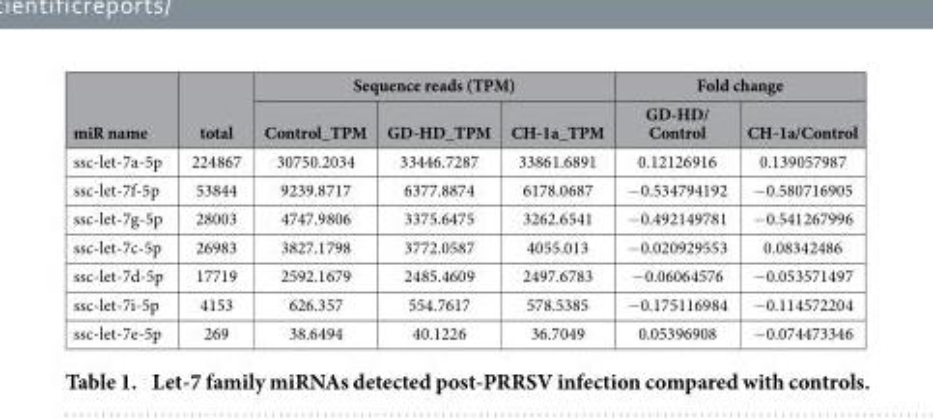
<table><thead><tr><td rowspan="2">miR name</td><td rowspan="2">total</td><td colspan="3">Sequence reads (TPM)</td><td colspan="2">Fold change</td></tr><tr><td>Control_TPM</td><td>GD-HD_TPM</td><td>CH-1a_TPM</td><td>GD-HD/ Control</td><td>CH-1a/Control</td></tr></thead><tbody><tr><td>ssc-let-7a-5p</td><td>224867</td><td>30750.2034</td><td>33446.7287</td><td>33861.6891</td><td>0.12126916</td><td>0.139057987</td></tr><tr><td>ssc-let-7f-5p</td><td>53844</td><td>9239.8717</td><td>6377.8874</td><td>6178.0687</td><td>− 0.534794192</td><td>− 0.580716905</td></tr><tr><td>ssc-let-7g-5p</td><td>28003</td><td>4747.9806</td><td>3375.6475</td><td>3262.6541</td><td>− 0.492149781</td><td>− 0.541267996</td></tr><tr><td>ssc-let-7c-5p</td><td>26983</td><td>3827.1798</td><td>3772.0587</td><td>4055.013</td><td>− 0.020929553</td><td>0.08342486</td></tr><tr><td>ssc-let-7d-5p</td><td>17719</td><td>2592.1679</td><td>2485.4609</td><td>2497.6783</td><td>− 0.06064576</td><td>− 0.053571497</td></tr><tr><td>ssc-let-7i-5p</td><td>4153</td><td>626.357</td><td>554.7617</td><td>578.5385</td><td>− 0.175116984</td><td>− 0.114572204</td></tr><tr><td>ssc-let-7e-5p</td><td>269</td><td>38.6494</td><td>40.1226</td><td>36.7049</td><td>0.05396908</td><td>− 0.074473346</td></tr></tbody></table>